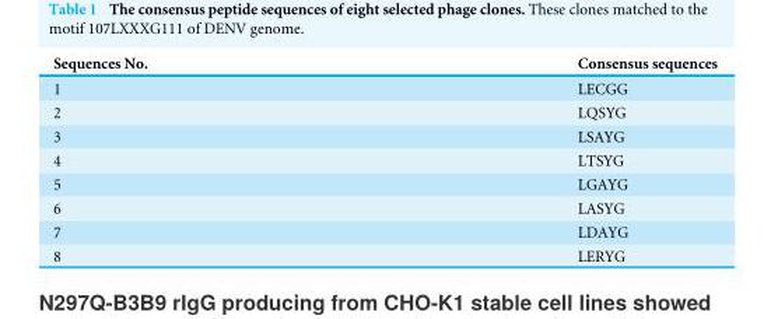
<table><thead><tr><td>Sequences No.</td><td>Consensus sequences</td></tr></thead><tbody><tr><td>1</td><td>LECGG</td></tr><tr><td>2</td><td>LQSYG</td></tr><tr><td>3</td><td>LSAYG</td></tr><tr><td>4</td><td>LTSYG</td></tr><tr><td>5</td><td>LGAYG</td></tr><tr><td>6</td><td>LASYG</td></tr><tr><td>7</td><td>LDAYG</td></tr><tr><td>8</td><td>LERYG</td></tr></tbody></table>